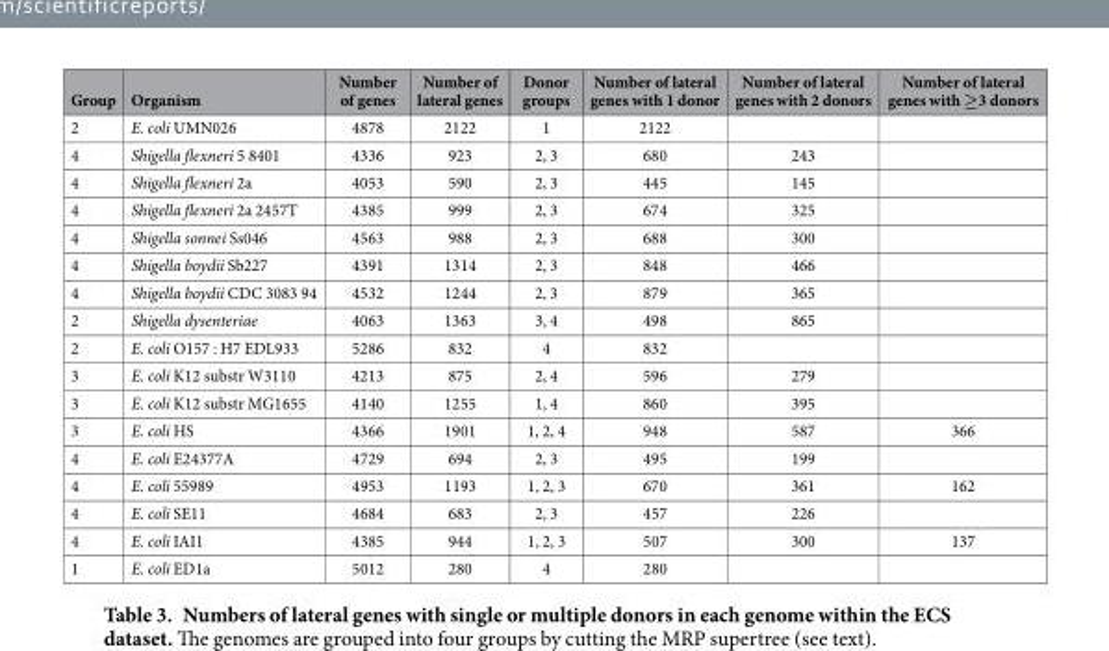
<table><thead><tr><td>Group</td><td>Organism</td><td>Number of genes</td><td>Number of lateral genes</td><td>Donor groups</td><td>Number of lateral genes with 1 donor</td><td>Number of lateral genes with 2 donors</td><td>Number of lateral genes with ≥3 donors</td></tr></thead><tbody><tr><td>2</td><td>E. coli UMN026</td><td>4878</td><td>2122</td><td>1</td><td>2122</td><td></td><td></td></tr><tr><td>4</td><td>Shigella flexneri 5 8401</td><td>4336</td><td>923</td><td>2, 3</td><td>680</td><td>243</td><td></td></tr><tr><td>4</td><td>Shigella flexneri 2a</td><td>4053</td><td>590</td><td>2, 3</td><td>445</td><td>145</td><td></td></tr><tr><td>4</td><td>Shigella flexneri 2a 2457T</td><td>4385</td><td>999</td><td>2, 3</td><td>674</td><td>325</td><td></td></tr><tr><td>4</td><td>Shigella sonnei Ss046</td><td>4563</td><td>988</td><td>2, 3</td><td>688</td><td>300</td><td></td></tr><tr><td>4</td><td>Shigella boydii Sb227</td><td>4391</td><td>1314</td><td>2, 3</td><td>848</td><td>466</td><td></td></tr><tr><td>4</td><td>Shigella boydii CDC 3083 94</td><td>4532</td><td>1244</td><td>2, 3</td><td>879</td><td>365</td><td></td></tr><tr><td>2</td><td>Shigella dysenteriae</td><td>4063</td><td>1363</td><td>3, 4</td><td>498</td><td>865</td><td></td></tr><tr><td>2</td><td>E. coli O157 : H7 EDL933</td><td>5286</td><td>832</td><td>4</td><td>832</td><td></td><td></td></tr><tr><td>3</td><td>E. coli K12 substr W3110</td><td>4213</td><td>875</td><td>2, 4</td><td>596</td><td>279</td><td></td></tr><tr><td>3</td><td>E. coli K12 substr MG1655</td><td>4140</td><td>1255</td><td>1, 4</td><td>860</td><td>395</td><td></td></tr><tr><td>3</td><td>E. coli HS</td><td>4366</td><td>1901</td><td>1, 2, 4</td><td>948</td><td>587</td><td>366</td></tr><tr><td>4</td><td>E. coli E24377A</td><td>4729</td><td>694</td><td>2, 3</td><td>495</td><td>199</td><td></td></tr><tr><td>4</td><td>E. coli 55989</td><td>4953</td><td>1193</td><td>1, 2, 3</td><td>670</td><td>361</td><td>162</td></tr><tr><td>4</td><td>E. coli SE11</td><td>4684</td><td>683</td><td>2, 3</td><td>457</td><td>226</td><td></td></tr><tr><td>4</td><td>E. coli IAI1</td><td>4385</td><td>944</td><td>1, 2, 3</td><td>507</td><td>300</td><td>137</td></tr><tr><td>1</td><td>E. coli ED1a</td><td>5012</td><td>280</td><td>4</td><td>280</td><td></td><td></td></tr></tbody></table>